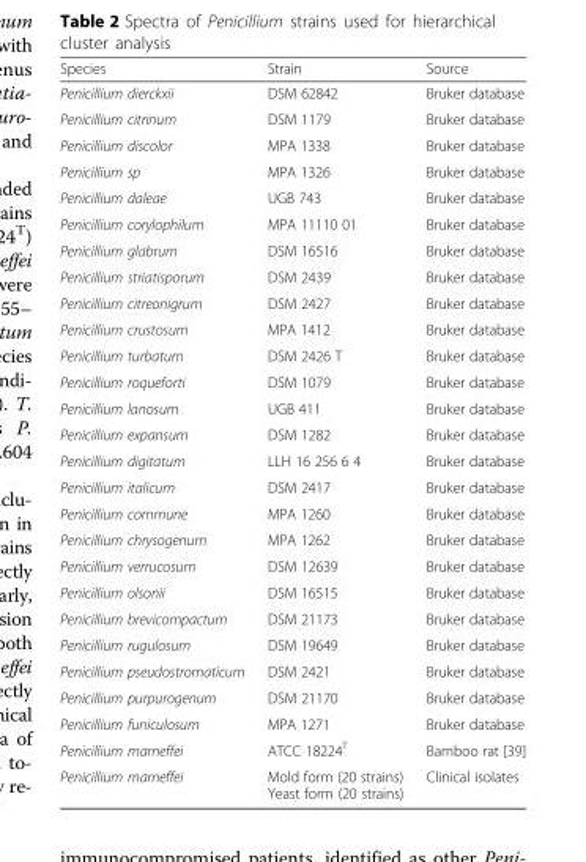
<table><thead><tr><td>Species</td><td>Strain</td><td>Source</td></tr></thead><tbody><tr><td>Penicillium dierckxii</td><td>DSM 62842</td><td>Bruker database</td></tr><tr><td>Penicillium citrinum</td><td>DSM 1179</td><td>Bruker database</td></tr><tr><td>Penicillium discolor</td><td>MPA 1338</td><td>Bruker database</td></tr><tr><td>Penicillium sp</td><td>MPA 1326</td><td>Bruker database</td></tr><tr><td>Penicillium daleae</td><td>UGB 743</td><td>Bruker database</td></tr><tr><td>Penicillium corylophilum</td><td>MPA 11110 01</td><td>Bruker database</td></tr><tr><td>Penicillium glabrum</td><td>DSM 16516</td><td>Bruker database</td></tr><tr><td>Penicillium striatisporum</td><td>DSM 2439</td><td>Bruker database</td></tr><tr><td>Penicillium citreonigrum</td><td>DSM 2427</td><td>Bruker database</td></tr><tr><td>Penicillium crustosum</td><td>MPA 1412</td><td>Bruker database</td></tr><tr><td>Penicillium turbatum</td><td>DSM 2426 T</td><td>Bruker database</td></tr><tr><td>Penicillium roqueforti</td><td>DSM 1079</td><td>Bruker database</td></tr><tr><td>Penicillium lanosum</td><td>UGB 411</td><td>Bruker database</td></tr><tr><td>Penicillium expansum</td><td>DSM 1282</td><td>Bruker database</td></tr><tr><td>Penicillium digitatum</td><td>LLH 16 256 6 4</td><td>Bruker database</td></tr><tr><td>Penicillium italicum</td><td>DSM 2417</td><td>Bruker database</td></tr><tr><td>Penicillium commune</td><td>MPA 1260</td><td>Bruker database</td></tr><tr><td>Penicillium chrysogenum</td><td>MPA 1262</td><td>Bruker database</td></tr><tr><td>Penicillium verrucosum</td><td>DSM 12639</td><td>Bruker database</td></tr><tr><td>Penicillium olsonii</td><td>DSM 16515</td><td>Bruker database</td></tr><tr><td>Penicillium brevicompactum</td><td>DSM 21173</td><td>Bruker database</td></tr><tr><td>Penicillium rugulosum</td><td>DSM 19649</td><td>Bruker database</td></tr><tr><td>Penicillium pseudostromaticum</td><td>DSM 2421</td><td>Bruker database</td></tr><tr><td>Penicillium purpurogenum</td><td>DSM 21170</td><td>Bruker database</td></tr><tr><td>Penicillium funiculosum</td><td>MPA 1271</td><td>Bruker database</td></tr><tr><td>Penicillium marneffei</td><td>ATCC 18224<sup>T</sup></td><td>Bamboo rat [39]</td></tr><tr><td>Penicillium marneffei</td><td>Mold form (20 strains) Yeast form (20 strains)</td><td>Clinical isolates</td></tr></tbody></table>